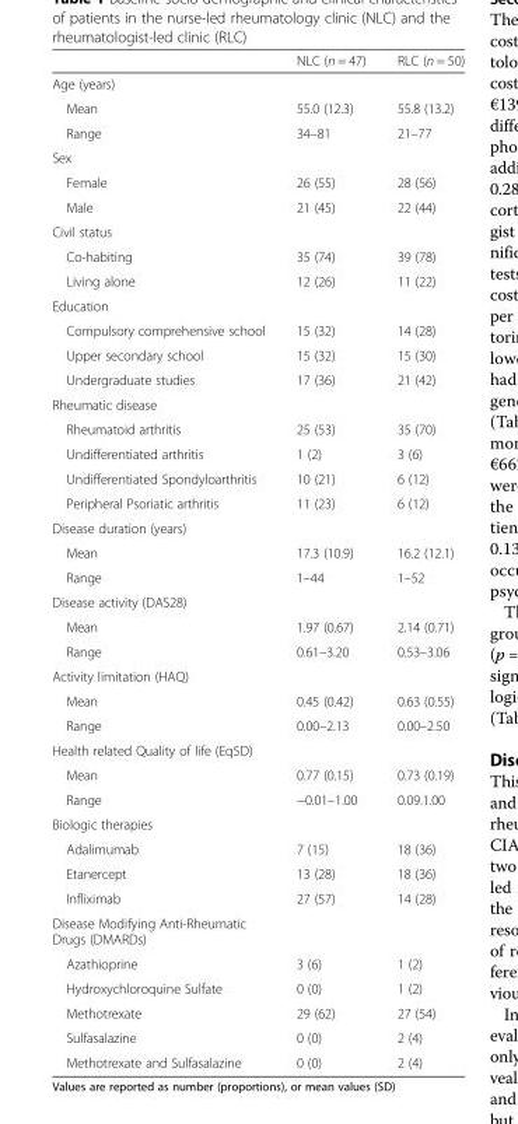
<table><thead><tr><td></td><td>NLC (n = 47)</td><td>RLC (n = 50)</td></tr></thead><tbody><tr><td colspan="3">Age (years)</td></tr><tr><td>Mean</td><td>55.0 (12.3)</td><td>55.8 (13.2)</td></tr><tr><td>Range</td><td>34–81</td><td>21–77</td></tr><tr><td colspan="3">Sex</td></tr><tr><td>Female</td><td>26 (55)</td><td>28 (56)</td></tr><tr><td>Male</td><td>21 (45)</td><td>22 (44)</td></tr><tr><td colspan="3">Civil status</td></tr><tr><td>Co-habiting</td><td>35 (74)</td><td>39 (78)</td></tr><tr><td>Living alone</td><td>12 (26)</td><td>11 (22)</td></tr><tr><td colspan="3">Education</td></tr><tr><td>Compulsory comprehensive school</td><td>15 (32)</td><td>14 (28)</td></tr><tr><td>Upper secondary school</td><td>15 (32)</td><td>15 (30)</td></tr><tr><td>Undergraduate studies</td><td>17 (36)</td><td>21 (42)</td></tr><tr><td colspan="3">Rheumatic disease</td></tr><tr><td>Rheumatoid arthritis</td><td>25 (53)</td><td>35 (70)</td></tr><tr><td>Undifferentiated arthritis</td><td>1 (2)</td><td>3 (6)</td></tr><tr><td>Undifferentiated Spondyloarthritis</td><td>10 (21)</td><td>6 (12)</td></tr><tr><td>Peripheral Psoriatic arthritis</td><td>11 (23)</td><td>6 (12)</td></tr><tr><td colspan="3">Disease duration (years)</td></tr><tr><td>Mean</td><td>17.3 (10.9)</td><td>16.2 (12.1)</td></tr><tr><td>Range</td><td>1–44</td><td>1–52</td></tr><tr><td colspan="3">Disease activity (DAS28)</td></tr><tr><td>Mean</td><td>1.97 (0.67)</td><td>2.14 (0.71)</td></tr><tr><td>Range</td><td>0.61–3.20</td><td>0.53–3.06</td></tr><tr><td colspan="3">Activity limitation (HAQ)</td></tr><tr><td>Mean</td><td>0.45 (0.42)</td><td>0.63 (0.55)</td></tr><tr><td>Range</td><td>0.00–2.13</td><td>0.00–2.50</td></tr><tr><td colspan="3">Health related Quality of life (Eq5D)</td></tr><tr><td>Mean</td><td>0.77 (0.15)</td><td>0.73 (0.19)</td></tr><tr><td>Range</td><td>−0.01–1.00</td><td>0.09.1.00</td></tr><tr><td colspan="3">Biologic therapies</td></tr><tr><td>Adalimumab</td><td>7 (15)</td><td>18 (36)</td></tr><tr><td>Etanercept</td><td>13 (28)</td><td>18 (36)</td></tr><tr><td>Infliximab</td><td>27 (57)</td><td>14 (28)</td></tr><tr><td colspan="3">Disease Modifying Anti-Rheumatic Drugs (DMARDs)</td></tr><tr><td>Azathioprine</td><td>3 (6)</td><td>1 (2)</td></tr><tr><td>Hydroxychloroquine Sulfate</td><td>0 (0)</td><td>1 (2)</td></tr><tr><td>Methotrexate</td><td>29 (62)</td><td>27 (54)</td></tr><tr><td>Sulfasalazine</td><td>0 (0)</td><td>2 (4)</td></tr><tr><td>Methotrexate and Sulfasalazine</td><td>0 (0)</td><td>2 (4)</td></tr></tbody></table>